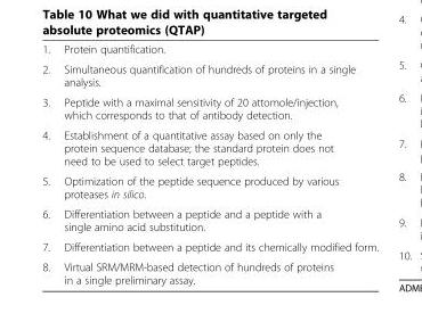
<table><tbody><tr><td>1.</td><td>Protein quantification.</td></tr><tr><td>2.</td><td>Simultaneous quantification of hundreds of proteins in a single analysis.</td></tr><tr><td>3.</td><td>Peptide with a maximal sensitivity of 20 attomole/injection, which corresponds to that of antibody detection.</td></tr><tr><td>4.</td><td>Establishment of a quantitative assay based on only the protein sequence database; the standard protein does not need to be used to select target peptides.</td></tr><tr><td>5.</td><td>Optimization of the peptide sequence produced by various proteases in silico.</td></tr><tr><td>6.</td><td>Differentiation between a peptide and a peptide with a single amino acid substitution.</td></tr><tr><td>7.</td><td>Differentiation between a peptide and its chemically modified form.</td></tr><tr><td>8.</td><td>Virtual SRM/MRM-based detection of hundreds of proteins in a single preliminary assay.</td></tr></tbody></table>